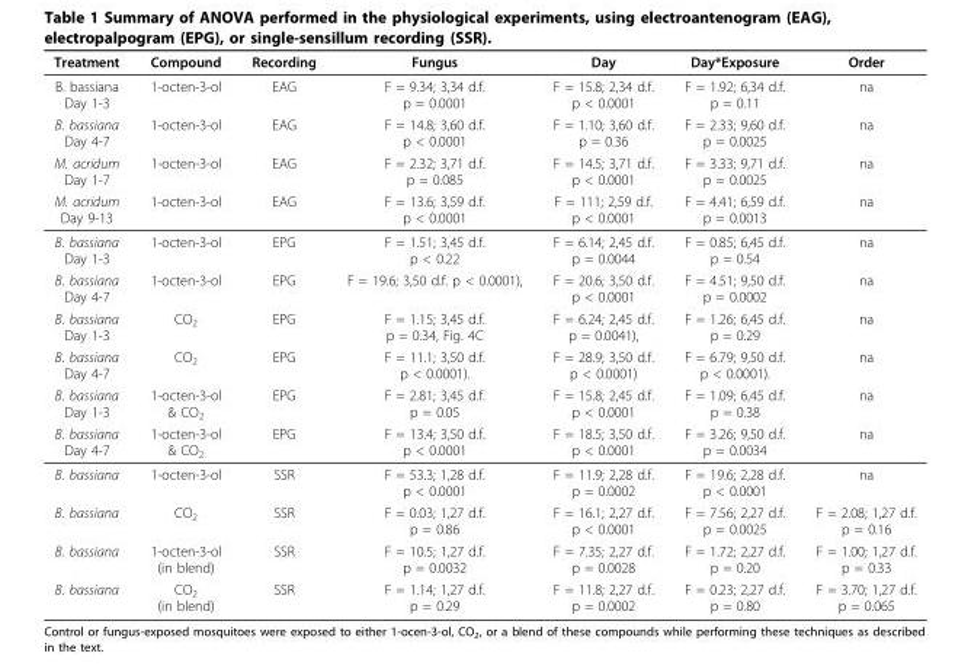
<table><thead><tr><td>Treatment</td><td>Compound</td><td>Recording</td><td>Fungus</td><td>Day</td><td>Day*Exposure</td><td>Order</td></tr></thead><tbody><tr><td>B. bassiana Day 1-3</td><td>1-octen-3-ol</td><td>EAG</td><td>F = 9.34; 3,34 d.f. p = 0.0001</td><td>F = 15.8; 2,34 d.f. p &lt; 0.0001</td><td>F = 1.92; 6,34 d.f. p = 0.11</td><td>na</td></tr><tr><td>B. bassiana Day 4-7</td><td>1-octen-3-ol</td><td>EAG</td><td>F = 14.8; 3,60 d.f. p &lt; 0.0001</td><td>F = 1.10; 3,60 d.f. p = 0.36</td><td>F = 2.33; 9,60 d.f. p = 0.0025</td><td>na</td></tr><tr><td>M. acridum Day 1-7</td><td>1-octen-3-ol</td><td>EAG</td><td>F = 2.32; 3,71 d.f. p = 0.085</td><td>F = 14.5; 3,71 d.f. p &lt; 0.0001</td><td>F = 3.33; 9,71 d.f. p = 0.0025</td><td>na</td></tr><tr><td>M. acridum Day 9-13</td><td>1-octen-3-ol</td><td>EAG</td><td>F = 13.6; 3,59 d.f. p &lt; 0.0001</td><td>F = 111; 2,59 d.f. p &lt; 0.0001</td><td>F = 4.41; 6,59 d.f. p = 0.0013</td><td>na</td></tr><tr><td>B. bassiana Day 1-3</td><td>1-octen-3-ol</td><td>EPG</td><td>F = 1.51; 3,45 d.f. p &lt; 0.22</td><td>F = 6.14; 2,45 d.f. p = 0.0044</td><td>F = 0.85; 6,45 d.f. p = 0.54</td><td>na</td></tr><tr><td>B. bassiana Day 4-7</td><td>1-octen-3-ol</td><td>EPG</td><td>F = 19.6; 3,50 d.f. p &lt; 0.0001),</td><td>F = 20.6; 3,50 d.f. p &lt; 0.0001</td><td>F = 4.51; 9,50 d.f. p = 0.0002</td><td>na</td></tr><tr><td>B. bassiana Day 1-3</td><td>CO<sub>2</sub></td><td>EPG</td><td>F = 1.15; 3,45 d.f. p = 0.34, Fig. 4C</td><td>F = 6.24; 2,45 d.f. p = 0.0041),</td><td>F = 1.26; 6,45 d.f. p = 0.29</td><td>na</td></tr><tr><td>B. bassiana Day 4-7</td><td>CO<sub>2</sub></td><td>EPG</td><td>F = 11.1; 3,50 d.f. p &lt; 0.0001).</td><td>F = 28.9; 3,50 d.f. p &lt; 0.0001)</td><td>F = 6.79; 9,50 d.f. p &lt; 0.0001).</td><td>na</td></tr><tr><td>B. bassiana Day 1-3</td><td>1-octen-3-ol &amp; CO<sub>2</sub></td><td>EPG</td><td>F = 2.81; 3,45 d.f. p = 0.05</td><td>F = 15.8; 2,45 d.f. p &lt; 0.0001</td><td>F = 1.09; 6,45 d.f. p = 0.38</td><td>na</td></tr><tr><td>B. bassiana Day 4-7</td><td>1-octen-3-ol &amp; CO<sub>2</sub></td><td>EPG</td><td>F = 13.4; 3,50 d.f. p &lt; 0.0001</td><td>F = 18.5; 3,50 d.f. p &lt; 0.0001</td><td>F = 3.26; 9,50 d.f. p = 0.0034</td><td>na</td></tr><tr><td>B. bassiana</td><td>1-octen-3-ol</td><td>SSR</td><td>F = 53.3; 1,28 d.f. p &lt; 0.0001</td><td>F = 11.9; 2,28 d.f. p = 0.0002</td><td>F = 19.6; 2,28 d.f. p &lt; 0.0001</td><td>na</td></tr><tr><td>B. bassiana</td><td>CO<sub>2</sub></td><td>SSR</td><td>F = 0.03; 1,27 d.f. p = 0.86</td><td>F = 16.1; 2,27 d.f. p &lt; 0.0001</td><td>F = 7.56; 2,27 d.f. p = 0.0025</td><td>F = 2.08; 1,27 d.f. p = 0.16</td></tr><tr><td>B. bassiana</td><td>1-octen-3-ol (in blend)</td><td>SSR</td><td>F = 10.5; 1,27 d.f. p = 0.0032</td><td>F = 7.35; 2,27 d.f. p = 0.0028</td><td>F = 1.72; 2,27 d.f. p = 0.20</td><td>F = 1.00; 1,27 d.f. p = 0.33</td></tr><tr><td>B. bassiana</td><td>CO<sub>2</sub> (in blend)</td><td>SSR</td><td>F = 1.14; 1,27 d.f. p = 0.29</td><td>F = 11.8; 2,27 d.f. p = 0.0002</td><td>F = 0.23; 2,27 d.f. p = 0.80</td><td>F = 3.70; 1,27 d.f. p = 0.065</td></tr></tbody></table>